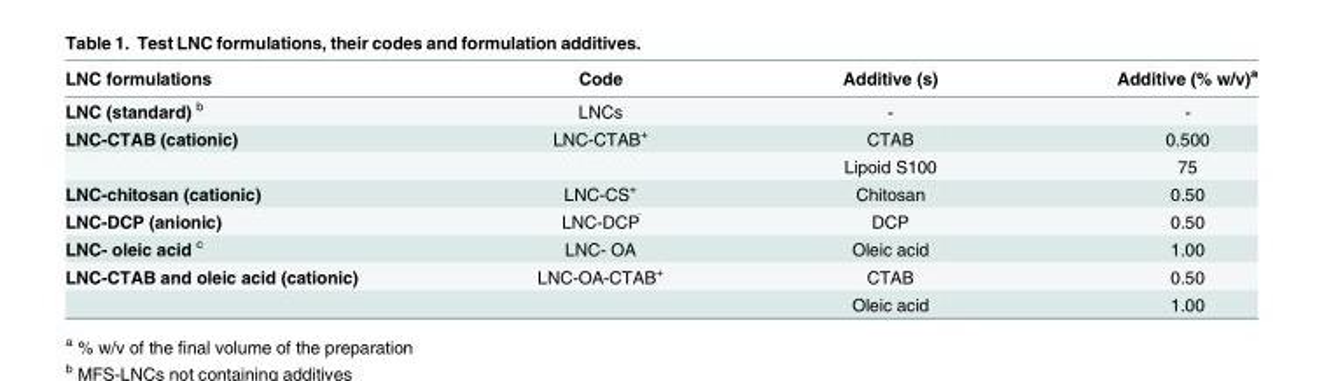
<table><thead><tr><td>LNC formulations</td><td>Code</td><td>Additive (s)</td><td>Additive (% w/v)<sup>a</sup></td></tr></thead><tbody><tr><td>LNC (standard) <sup>b</sup></td><td>LNCs</td><td>-</td><td>-</td></tr><tr><td rowspan="2">LNC-CTAB (cationic)</td><td>LNC-CTAB<sup>+</sup></td><td>CTAB</td><td>0.500</td></tr><tr><td></td><td>Lipoid S100</td><td>75</td></tr><tr><td>LNC-chitosan (cationic)</td><td>LNC-CS<sup>+</sup></td><td>Chitosan</td><td>0.50</td></tr><tr><td>LNC-DCP (anionic)</td><td>LNC-DCP<sup>¯</sup></td><td>DCP</td><td>0.50</td></tr><tr><td>LNC- oleic acid <sup>c</sup></td><td>LNC- OA</td><td>Oleic acid</td><td>1.00</td></tr><tr><td rowspan="2">LNC-CTAB and oleic acid (cationic)</td><td>LNC-OA-CTAB<sup>+</sup></td><td>CTAB</td><td>0.50</td></tr><tr><td></td><td>Oleic acid</td><td>1.00</td></tr></tbody></table>